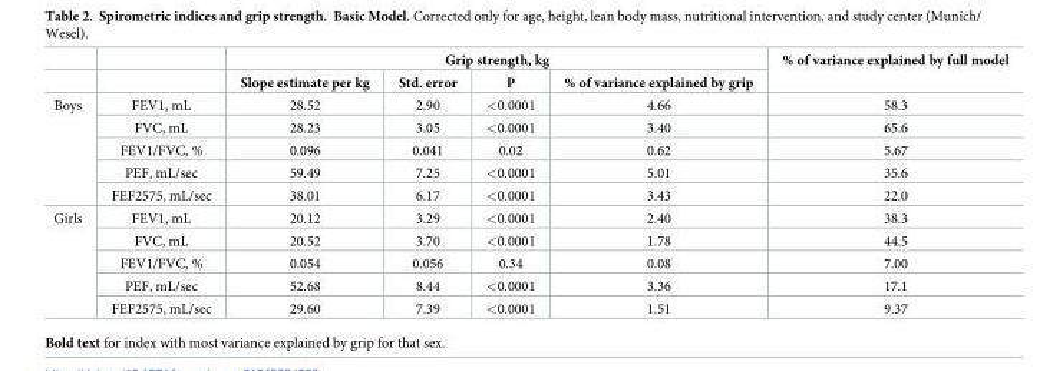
<table><thead><tr><td rowspan="2"></td><td rowspan="2"></td><td colspan="4">Grip strength, kg</td><td rowspan="2">% of variance explained by full model</td></tr><tr><td>Slope estimate per kg</td><td>Std. error</td><td>P</td><td>% of variance explained by grip</td></tr></thead><tbody><tr><td rowspan="5">Boys</td><td>FEV1, mL</td><td>28.52</td><td>2.90</td><td>&lt;0.0001</td><td>4.66</td><td>58.3</td></tr><tr><td>FVC, mL</td><td>28.23</td><td>3.05</td><td>&lt;0.0001</td><td>3.40</td><td>65.6</td></tr><tr><td>FEV1/FVC, %</td><td>0.096</td><td>0.041</td><td>0.02</td><td>0.62</td><td>5.67</td></tr><tr><td>PEF, mL/sec</td><td>59.49</td><td>7.25</td><td>&lt;0.0001</td><td>5.01</td><td>35.6</td></tr><tr><td>FEF2575, mL/sec</td><td>38.01</td><td>6.17</td><td>&lt;0.0001</td><td>3.43</td><td>22.0</td></tr><tr><td rowspan="5">Girls</td><td>FEV1, mL</td><td>20.12</td><td>3.29</td><td>&lt;0.0001</td><td>2.40</td><td>38.3</td></tr><tr><td>FVC, mL</td><td>20.52</td><td>3.70</td><td>&lt;0.0001</td><td>1.78</td><td>44.5</td></tr><tr><td>FEV1/FVC, %</td><td>0.054</td><td>0.056</td><td>0.34</td><td>0.08</td><td>7.00</td></tr><tr><td>PEF, mL/sec</td><td>52.68</td><td>8.44</td><td>&lt;0.0001</td><td>3.36</td><td>17.1</td></tr><tr><td>FEF2575, mL/sec</td><td>29.60</td><td>7.39</td><td>&lt;0.0001</td><td>1.51</td><td>9.37</td></tr></tbody></table>